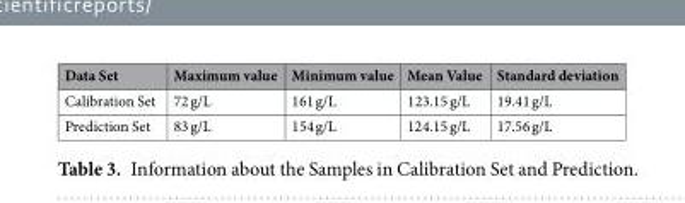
<table><thead><tr><td>Data Set</td><td>Maximum value</td><td>Minimum value</td><td>Mean Value</td><td>Standard deviation</td></tr></thead><tbody><tr><td>Calibration Set</td><td>72 g/L</td><td>161 g/L</td><td>123.15 g/L</td><td>19.41 g/L</td></tr><tr><td>Prediction Set</td><td>83 g/L</td><td>154 g/L</td><td>124.15 g/L</td><td>17.56 g/L</td></tr></tbody></table>